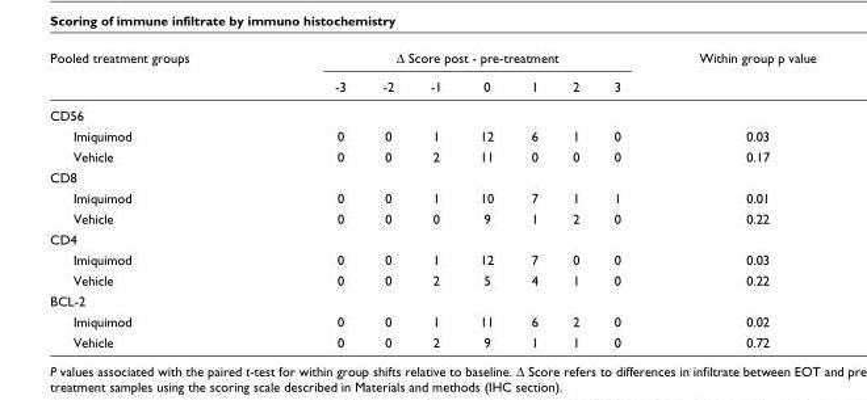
<table><thead><tr><td rowspan="2">Pooled treatment groups</td><td colspan="7">Δ Score post - pre-treatment</td><td rowspan="2">Within group p value</td></tr><tr><td>-3</td><td>-2</td><td>-1</td><td>0</td><td>1</td><td>2</td><td>3</td></tr></thead><tbody><tr><td colspan="9">CD56</td></tr><tr><td>Imiquimod</td><td>0</td><td>0</td><td>1</td><td>12</td><td>6</td><td>1</td><td>0</td><td>0.03</td></tr><tr><td>Vehicle</td><td>0</td><td>0</td><td>2</td><td>11</td><td>0</td><td>0</td><td>0</td><td>0.17</td></tr><tr><td colspan="9">CD8</td></tr><tr><td>Imiquimod</td><td>0</td><td>0</td><td>1</td><td>10</td><td>7</td><td>1</td><td>1</td><td>0.01</td></tr><tr><td>Vehicle</td><td>0</td><td>0</td><td>0</td><td>9</td><td>1</td><td>2</td><td>0</td><td>0.22</td></tr><tr><td colspan="9">CD4</td></tr><tr><td>Imiquimod</td><td>0</td><td>0</td><td>1</td><td>12</td><td>7</td><td>0</td><td>0</td><td>0.03</td></tr><tr><td>Vehicle</td><td>0</td><td>0</td><td>2</td><td>5</td><td>4</td><td>1</td><td>0</td><td>0.22</td></tr><tr><td colspan="9">BCL-2</td></tr><tr><td>Imiquimod</td><td>0</td><td>0</td><td>1</td><td>11</td><td>6</td><td>2</td><td>0</td><td>0.02</td></tr><tr><td>Vehicle</td><td>0</td><td>0</td><td>2</td><td>9</td><td>1</td><td>1</td><td>0</td><td>0.72</td></tr></tbody></table>